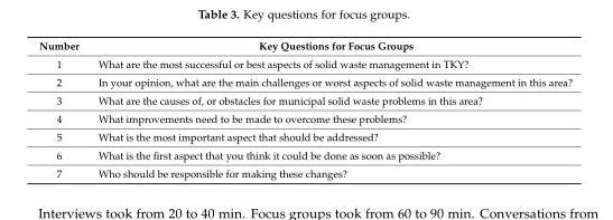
<table><thead><tr><td>Number</td><td>Key Questions for Focus Groups</td></tr></thead><tbody><tr><td>1</td><td>What are the most successful or best aspects of solid waste management in TKY?</td></tr><tr><td>2</td><td>In your opinion, what are the main challenges or worst aspects of solid waste management in this area?</td></tr><tr><td>3</td><td>What are the causes of, or obstacles for municipal solid waste problems in this area?</td></tr><tr><td>4</td><td>What improvements need to be made to overcome these problems?</td></tr><tr><td>5</td><td>What is the most important aspect that should be addressed?</td></tr><tr><td>6</td><td>What is the first aspect that you think it could be done as soon as possible?</td></tr><tr><td>7</td><td>Who should be responsible for making these changes?</td></tr></tbody></table>